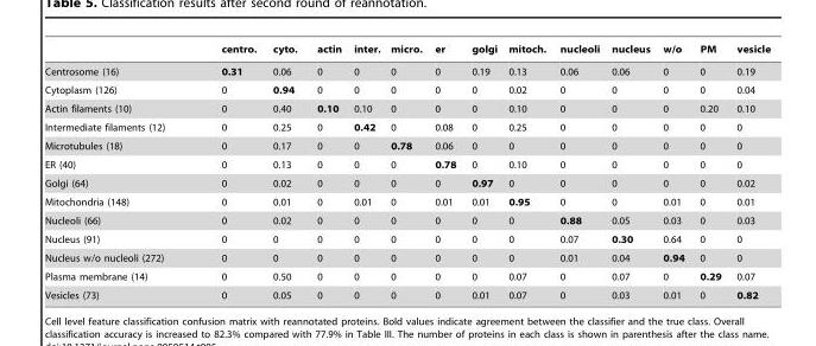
<table><thead><tr><td></td><td>centro.</td><td>cyto.</td><td>actin</td><td>inter.</td><td>micro.</td><td>er</td><td>golgi</td><td>mitoch.</td><td>nucleoli</td><td>nucleus</td><td>w/o</td><td>PM</td><td>vesicle</td></tr></thead><tbody><tr><td>Centrosome (16)</td><td>0.31</td><td>0.06</td><td>0</td><td>0</td><td>0</td><td>0</td><td>0.19</td><td>0.13</td><td>0.06</td><td>0.06</td><td>0</td><td>0</td><td>0.19</td></tr><tr><td>Cytoplasm (126)</td><td>0</td><td>0.94</td><td>0</td><td>0</td><td>0</td><td>0</td><td>0</td><td>0.02</td><td>0</td><td>0</td><td>0</td><td>0</td><td>0.04</td></tr><tr><td>Actin filaments (10)</td><td>0</td><td>0.40</td><td>0.10</td><td>0.10</td><td>0</td><td>0</td><td>0</td><td>0.10</td><td>0</td><td>0</td><td>0</td><td>0.20</td><td>0.10</td></tr><tr><td>Intermediate filaments (12)</td><td>0</td><td>0.25</td><td>0</td><td>0.42</td><td>0</td><td>0.08</td><td>0</td><td>0.25</td><td>0</td><td>0</td><td>0</td><td>0</td><td>0</td></tr><tr><td>Microtubules (18)</td><td>0</td><td>0.17</td><td>0</td><td>0</td><td>0.78</td><td>0.06</td><td>0</td><td>0</td><td>0</td><td>0</td><td>0</td><td>0</td><td>0</td></tr><tr><td>ER (40)</td><td>0</td><td>0.13</td><td>0</td><td>0</td><td>0</td><td>0.78</td><td>0</td><td>0.10</td><td>0</td><td>0</td><td>0</td><td>0</td><td>0</td></tr><tr><td>Golgi (64)</td><td>0</td><td>0.02</td><td>0</td><td>0</td><td>0</td><td>0</td><td>0.97</td><td>0</td><td>0</td><td>0</td><td>0</td><td>0</td><td>0.02</td></tr><tr><td>Mitochondria (148)</td><td>0</td><td>0.01</td><td>0</td><td>0.01</td><td>0</td><td>0.01</td><td>0.01</td><td>0.95</td><td>0</td><td>0</td><td>0.01</td><td>0</td><td>0.01</td></tr><tr><td>Nucleoli (66)</td><td>0</td><td>0.02</td><td>0</td><td>0</td><td>0</td><td>0</td><td>0</td><td>0</td><td>0.88</td><td>0.05</td><td>0.03</td><td>0</td><td>0.03</td></tr><tr><td>Nucleus (91)</td><td>0</td><td>0</td><td>0</td><td>0</td><td>0</td><td>0</td><td>0</td><td>0</td><td>0.07</td><td>0.30</td><td>0.64</td><td>0</td><td>0</td></tr><tr><td>Nucleus w/o nucleoli (272)</td><td>0</td><td>0</td><td>0</td><td>0</td><td>0</td><td>0</td><td>0</td><td>0</td><td>0.01</td><td>0.04</td><td>0.94</td><td>0</td><td>0</td></tr><tr><td>Plasma membrane (14)</td><td>0</td><td>0.50</td><td>0</td><td>0</td><td>0</td><td>0</td><td>0</td><td>0.07</td><td>0</td><td>0.07</td><td>0</td><td>0.29</td><td>0.07</td></tr><tr><td>Vesicles (73)</td><td>0</td><td>0.05</td><td>0</td><td>0</td><td>0</td><td>0</td><td>0.01</td><td>0.07</td><td>0</td><td>0.03</td><td>0.01</td><td>0</td><td>0.82</td></tr></tbody></table>